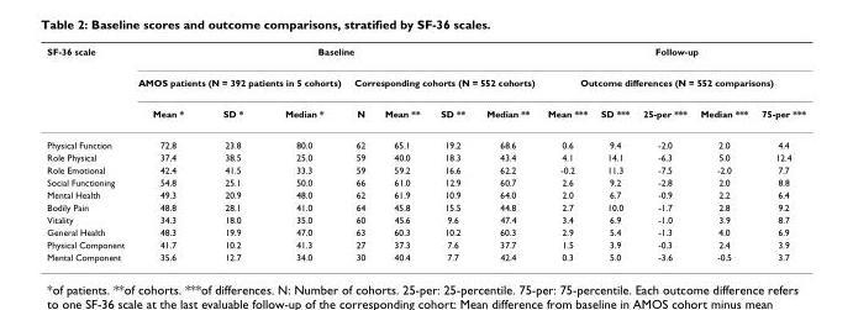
<table><thead><tr><td rowspan="3">SF-36 scale</td><td colspan="7">Baseline</td><td rowspan="2" colspan="5">Follow-up Outcome differences (N = 552 comparisons)</td></tr><tr><td colspan="3">AMOS patients (N = 392 patients in 5 cohorts)</td><td colspan="4">Corresponding cohorts (N = 552 cohorts)</td></tr><tr><td>Mean *</td><td>SD *</td><td>Median *</td><td>N</td><td>Mean **</td><td>SD **</td><td>Median **</td><td>Mean ***</td><td>SD ***</td><td>25-per ***</td><td>Median ***</td><td>75-per ***</td></tr></thead><tbody><tr><td>Physical Function</td><td>72.8</td><td>23.8</td><td>80.0</td><td>62</td><td>65.1</td><td>19.2</td><td>68.6</td><td>0.6</td><td>9.4</td><td>-2.0</td><td>2.0</td><td>4.4</td></tr><tr><td>Role Physical</td><td>37.4</td><td>38.5</td><td>25.0</td><td>59</td><td>40.0</td><td>18.3</td><td>43.4</td><td>4.1</td><td>14.1</td><td>-6.3</td><td>5.0</td><td>12.4</td></tr><tr><td>Role Emotional</td><td>42.4</td><td>41.5</td><td>33.3</td><td>59</td><td>59.2</td><td>16.6</td><td>62.2</td><td>-0.2</td><td>11.3</td><td>-7.5</td><td>-2.0</td><td>7.7</td></tr><tr><td>Social Functioning</td><td>54.8</td><td>25.1</td><td>50.0</td><td>66</td><td>61.0</td><td>12.9</td><td>60.7</td><td>2.6</td><td>9.2</td><td>-2.8</td><td>2.0</td><td>8.8</td></tr><tr><td>Mental Health</td><td>49.3</td><td>20.9</td><td>48.0</td><td>62</td><td>61.9</td><td>10.9</td><td>64.0</td><td>2.0</td><td>6.7</td><td>-0.9</td><td>2.2</td><td>6.4</td></tr><tr><td>Bodily Pain</td><td>48.8</td><td>28.1</td><td>41.0</td><td>64</td><td>45.8</td><td>15.5</td><td>44.8</td><td>2.7</td><td>10.0</td><td>-1.7</td><td>2.8</td><td>9.2</td></tr><tr><td>Vitality</td><td>34.3</td><td>18.0</td><td>35.0</td><td>60</td><td>45.6</td><td>9.6</td><td>47.4</td><td>3.4</td><td>6.9</td><td>-1.0</td><td>3.9</td><td>8.7</td></tr><tr><td>General Health</td><td>48.3</td><td>19.9</td><td>47.0</td><td>63</td><td>60.3</td><td>10.2</td><td>60.3</td><td>2.9</td><td>5.4</td><td>-1.3</td><td>4.0</td><td>6.9</td></tr><tr><td>Physical Component</td><td>41.7</td><td>10.2</td><td>41.3</td><td>27</td><td>37.3</td><td>7.6</td><td>37.7</td><td>1.5</td><td>3.9</td><td>-0.3</td><td>2.4</td><td>3.9</td></tr><tr><td>Mental Component</td><td>35.6</td><td>12.7</td><td>34.0</td><td>30</td><td>40.4</td><td>7.7</td><td>42.4</td><td>0.3</td><td>5.0</td><td>-3.6</td><td>-0.5</td><td>3.7</td></tr></tbody></table>